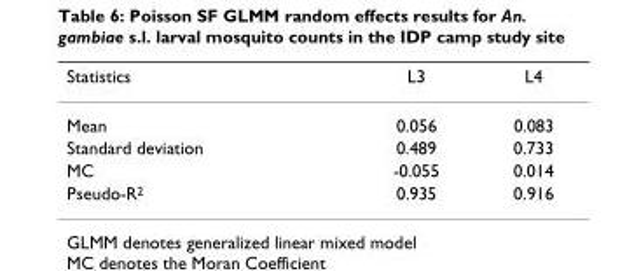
<table><thead><tr><td>Statistics</td><td>L3</td><td>L4</td></tr></thead><tbody><tr><td>Mean</td><td>0.056</td><td>0.083</td></tr><tr><td>Standard deviation</td><td>0.489</td><td>0.733</td></tr><tr><td>MC</td><td>-0.055</td><td>0.014</td></tr><tr><td>Pseudo-R<sup>2</sup></td><td>0.935</td><td>0.916</td></tr></tbody></table>